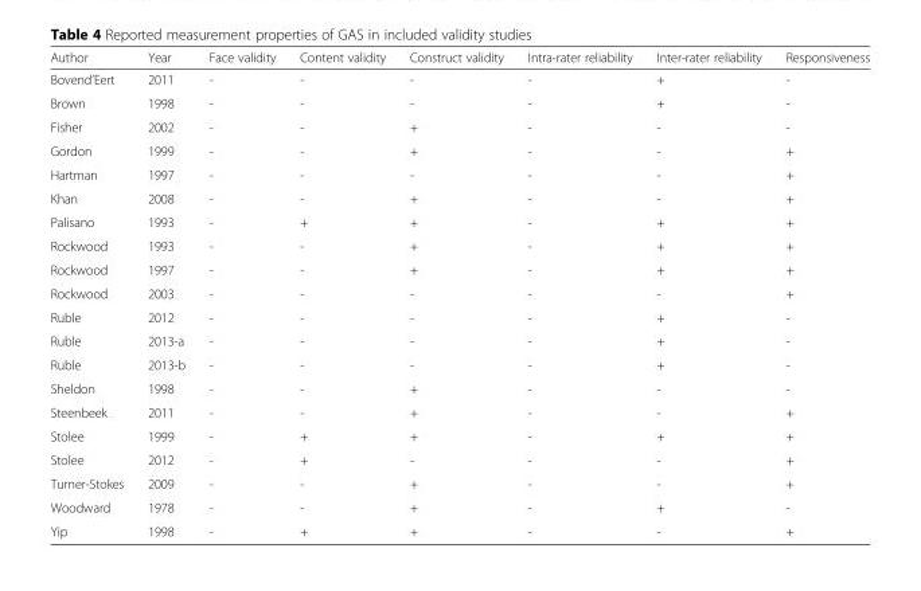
<table><thead><tr><td>Author</td><td>Year</td><td>Face validity</td><td>Content validity</td><td>Construct validity</td><td>Intra-rater reliability</td><td>Inter-rater reliability</td><td>Responsiveness</td></tr></thead><tbody><tr><td>Bovend’Eert</td><td>2011</td><td>-</td><td>-</td><td>-</td><td>-</td><td>+</td><td>-</td></tr><tr><td>Brown</td><td>1998</td><td>-</td><td>-</td><td>-</td><td>-</td><td>+</td><td>-</td></tr><tr><td>Fisher</td><td>2002</td><td>-</td><td>-</td><td>+</td><td>-</td><td>-</td><td>-</td></tr><tr><td>Gordon</td><td>1999</td><td>-</td><td>-</td><td>+</td><td>-</td><td>-</td><td>+</td></tr><tr><td>Hartman</td><td>1997</td><td>-</td><td>-</td><td>-</td><td>-</td><td>-</td><td>+</td></tr><tr><td>Khan</td><td>2008</td><td>-</td><td>-</td><td>+</td><td>-</td><td>-</td><td>+</td></tr><tr><td>Palisano</td><td>1993</td><td>-</td><td>+</td><td>+</td><td>-</td><td>+</td><td>+</td></tr><tr><td>Rockwood</td><td>1993</td><td>-</td><td>-</td><td>+</td><td>-</td><td>+</td><td>+</td></tr><tr><td>Rockwood</td><td>1997</td><td>-</td><td>-</td><td>+</td><td>-</td><td>+</td><td>+</td></tr><tr><td>Rockwood</td><td>2003</td><td>-</td><td>-</td><td>-</td><td>-</td><td>-</td><td>+</td></tr><tr><td>Ruble</td><td>2012</td><td>-</td><td>-</td><td>-</td><td>-</td><td>+</td><td>-</td></tr><tr><td>Ruble</td><td>2013-a</td><td>-</td><td>-</td><td>-</td><td>-</td><td>+</td><td>-</td></tr><tr><td>Ruble</td><td>2013-b</td><td>-</td><td>-</td><td>-</td><td>-</td><td>+</td><td>-</td></tr><tr><td>Sheldon</td><td>1998</td><td>-</td><td>-</td><td>+</td><td>-</td><td>-</td><td>-</td></tr><tr><td>Steenbeek</td><td>2011</td><td>-</td><td>-</td><td>+</td><td>-</td><td>-</td><td>+</td></tr><tr><td>Stolee</td><td>1999</td><td>-</td><td>+</td><td>+</td><td>-</td><td>+</td><td>+</td></tr><tr><td>Stolee</td><td>2012</td><td>-</td><td>+</td><td>-</td><td>-</td><td>-</td><td>+</td></tr><tr><td>Turner-Stokes</td><td>2009</td><td>-</td><td>-</td><td>+</td><td>-</td><td>-</td><td>+</td></tr><tr><td>Woodward</td><td>1978</td><td>-</td><td>-</td><td>+</td><td>-</td><td>+</td><td>-</td></tr><tr><td>Yip</td><td>1998</td><td>-</td><td>+</td><td>+</td><td>-</td><td>-</td><td>+</td></tr></tbody></table>